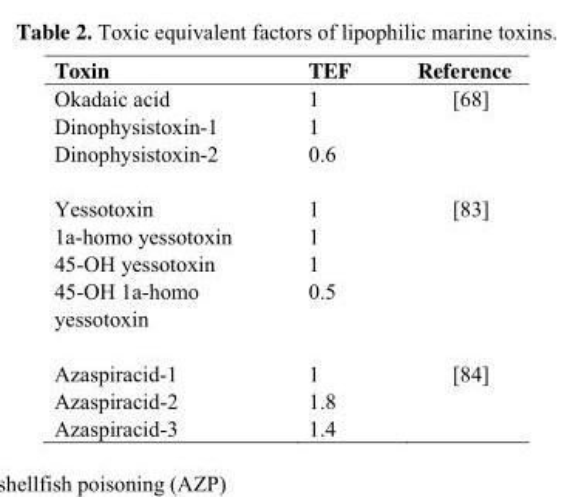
<table><thead><tr><td>Toxin</td><td>TEF</td><td>Reference</td></tr></thead><tbody><tr><td>Okadaic acid</td><td>1</td><td>[68]</td></tr><tr><td>Dinophysistoxin-1</td><td>1</td><td></td></tr><tr><td>Dinophysistoxin-2</td><td>0.6</td><td></td></tr><tr><td>Yessotoxin</td><td>1</td><td>[83]</td></tr><tr><td>1a-homo yessotoxin</td><td>1</td><td></td></tr><tr><td>45-OH yessotoxin</td><td>1</td><td></td></tr><tr><td>45-OH 1a-homo yessotoxin</td><td>0.5</td><td></td></tr><tr><td>Azaspiracid-1</td><td>1</td><td>[84]</td></tr><tr><td>Azaspiracid-2</td><td>1.8</td><td></td></tr><tr><td>Azaspiracid-3</td><td>1.4</td><td></td></tr></tbody></table>